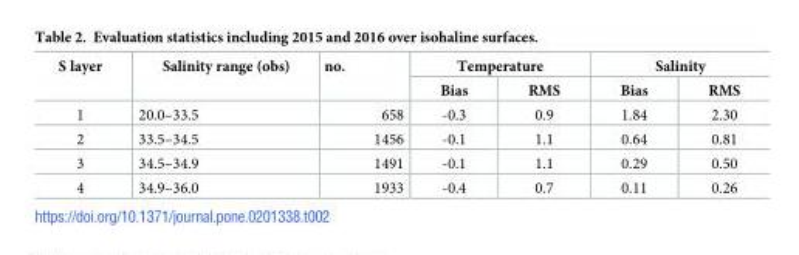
<table><thead><tr><td rowspan="2">S layer</td><td rowspan="2">Salinity range (obs)</td><td rowspan="2">no.</td><td colspan="2">Temperature</td><td colspan="2">Salinity</td></tr><tr><td>Bias</td><td>RMS</td><td>Bias</td><td>RMS</td></tr></thead><tbody><tr><td>1</td><td>20.0–33.5</td><td>658</td><td>-0.3</td><td>0.9</td><td>1.84</td><td>2.30</td></tr><tr><td>2</td><td>33.5–34.5</td><td>1456</td><td>-0.1</td><td>1.1</td><td>0.64</td><td>0.81</td></tr><tr><td>3</td><td>34.5–34.9</td><td>1491</td><td>-0.1</td><td>1.1</td><td>0.29</td><td>0.50</td></tr><tr><td>4</td><td>34.9–36.0</td><td>1933</td><td>-0.4</td><td>0.7</td><td>0.11</td><td>0.26</td></tr></tbody></table>